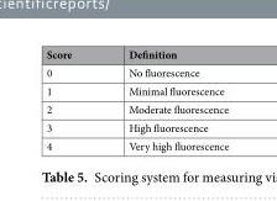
<table><thead><tr><td>Score</td><td>Definition</td></tr></thead><tbody><tr><td>0</td><td>No fluorescence</td></tr><tr><td>1</td><td>Minimal fluorescence</td></tr><tr><td>2</td><td>Moderate fluorescence</td></tr><tr><td>3</td><td>High fluorescence</td></tr><tr><td>4</td><td>Very high fluorescence</td></tr></tbody></table>